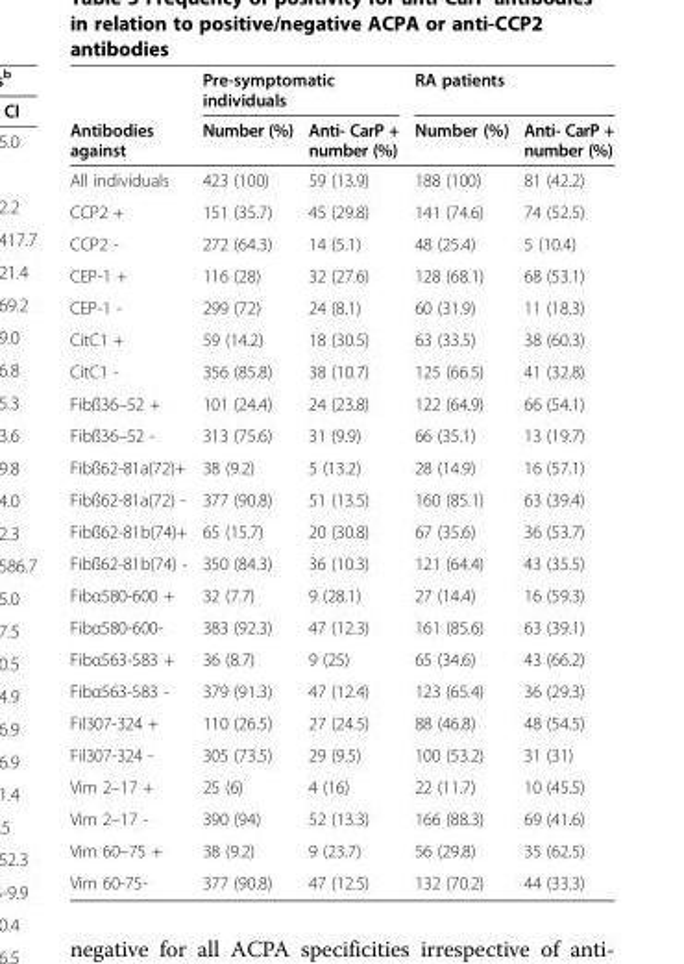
<table><thead><tr><td rowspan="2">Antibodies against</td><td colspan="2">Pre-symptomatic individuals</td><td colspan="2">RA patients</td></tr><tr><td>Number (%)</td><td>Anti- CarP + number (%)</td><td>Number (%)</td><td>Anti- CarP + number (%)</td></tr></thead><tbody><tr><td>All individuals</td><td>423 (100)</td><td>59 (13.9)</td><td>188 (100)</td><td>81 (42.2)</td></tr><tr><td>CCP2 +</td><td>151 (35.7)</td><td>45 (29.8)</td><td>141 (74.6)</td><td>74 (52.5)</td></tr><tr><td>CCP2 -</td><td>272 (64.3)</td><td>14 (5.1)</td><td>48 (25.4)</td><td>5 (10.4)</td></tr><tr><td>CEP-1 +</td><td>116 (28)</td><td>32 (27.6)</td><td>128 (68.1)</td><td>68 (53.1)</td></tr><tr><td>CEP-1 -</td><td>299 (72)</td><td>24 (8.1)</td><td>60 (31.9)</td><td>11 (18.3)</td></tr><tr><td>CitC1 +</td><td>59 (14.2)</td><td>18 (30.5)</td><td>63 (33.5)</td><td>38 (60.3)</td></tr><tr><td>CitC1 -</td><td>356 (85.8)</td><td>38 (10.7)</td><td>125 (66.5)</td><td>41 (32.8)</td></tr><tr><td>Fibß36–52 +</td><td>101 (24.4)</td><td>24 (23.8)</td><td>122 (64.9)</td><td>66 (54.1)</td></tr><tr><td>Fibß36–52 -</td><td>313 (75.6)</td><td>31 (9.9)</td><td>66 (35.1)</td><td>13 (19.7)</td></tr><tr><td>Fibß62-81a(72)+</td><td>38 (9.2)</td><td>5 (13.2)</td><td>28 (14.9)</td><td>16 (57.1)</td></tr><tr><td>Fibß62-81a(72) -</td><td>377 (90.8)</td><td>51 (13.5)</td><td>160 (85.1)</td><td>63 (39.4)</td></tr><tr><td>Fibß62-81b(74)+</td><td>65 (15.7)</td><td>20 (30.8)</td><td>67 (35.6)</td><td>36 (53.7)</td></tr><tr><td>Fibß62-81b(74) -</td><td>350 (84.3)</td><td>36 (10.3)</td><td>121 (64.4)</td><td>43 (35.5)</td></tr><tr><td>Fibα580-600 +</td><td>32 (7.7)</td><td>9 (28.1)</td><td>27 (14.4)</td><td>16 (59.3)</td></tr><tr><td>Fibα580-600-</td><td>383 (92.3)</td><td>47 (12.3)</td><td>161 (85.6)</td><td>63 (39.1)</td></tr><tr><td>Fibα563-583 +</td><td>36 (8.7)</td><td>9 (25)</td><td>65 (34.6)</td><td>43 (66.2)</td></tr><tr><td>Fibα563-583 -</td><td>379 (91.3)</td><td>47 (12.4)</td><td>123 (65.4)</td><td>36 (29.3)</td></tr><tr><td>Fil307-324 +</td><td>110 (26.5)</td><td>27 (24.5)</td><td>88 (46.8)</td><td>48 (54.5)</td></tr><tr><td>Fil307-324 -</td><td>305 (73.5)</td><td>29 (9.5)</td><td>100 (53.2)</td><td>31 (31)</td></tr><tr><td>Vim 2–17 +</td><td>25 (6)</td><td>4 (16)</td><td>22 (11.7)</td><td>10 (45.5)</td></tr><tr><td>Vim 2–17 -</td><td>390 (94)</td><td>52 (13.3)</td><td>166 (88.3)</td><td>69 (41.6)</td></tr><tr><td>Vim 60–75 +</td><td>38 (9.2)</td><td>9 (23.7)</td><td>56 (29.8)</td><td>35 (62.5)</td></tr><tr><td>Vim 60-75-</td><td>377 (90.8)</td><td>47 (12.5)</td><td>132 (70.2)</td><td>44 (33.3)</td></tr></tbody></table>